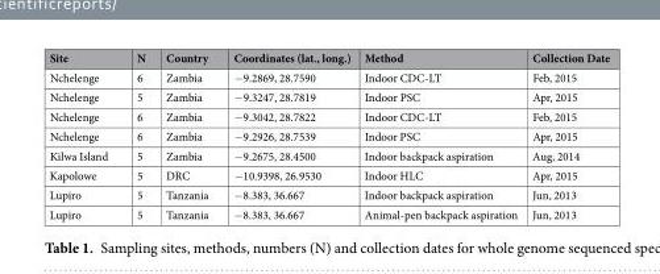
<table><thead><tr><td>Site</td><td>N</td><td>Country</td><td>Coordinates (lat., long.)</td><td>Method</td><td>Collection Date</td></tr></thead><tbody><tr><td>Nchelenge</td><td>6</td><td>Zambia</td><td>−9.2869, 28.7590</td><td>Indoor CDC-LT</td><td>Feb, 2015</td></tr><tr><td>Nchelenge</td><td>5</td><td>Zambia</td><td>−9.3247, 28.7819</td><td>Indoor PSC</td><td>Apr, 2015</td></tr><tr><td>Nchelenge</td><td>6</td><td>Zambia</td><td>−9.3042, 28.7822</td><td>Indoor CDC-LT</td><td>Feb, 2015</td></tr><tr><td>Nchelenge</td><td>6</td><td>Zambia</td><td>−9.2926, 28.7539</td><td>Indoor PSC</td><td>Apr, 2015</td></tr><tr><td>Kilwa Island</td><td>5</td><td>Zambia</td><td>−9.2675, 28.4500</td><td>Indoor backpack aspiration</td><td>Aug, 2014</td></tr><tr><td>Kapolowe</td><td>5</td><td>DRC</td><td>−10.9398, 26.9530</td><td>Indoor HLC</td><td>Apr, 2015</td></tr><tr><td>Lupiro</td><td>5</td><td>Tanzania</td><td>−8.383, 36.667</td><td>Indoor backpack aspiration</td><td>Jun, 2013</td></tr><tr><td>Lupiro</td><td>5</td><td>Tanzania</td><td>−8.383, 36.667</td><td>Animal-pen backpack aspiration</td><td>Jun, 2013</td></tr></tbody></table>